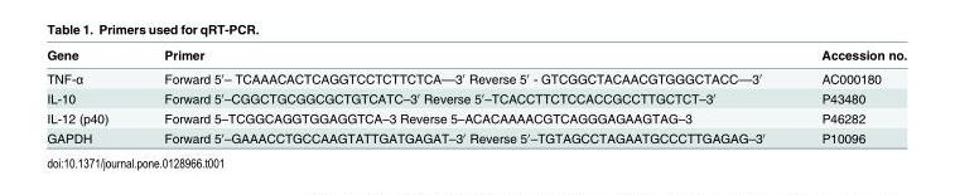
<table><thead><tr><td>Gene</td><td>Primer</td><td>Accession no.</td></tr></thead><tbody><tr><td>TNF-α</td><td>Forward 5′– TCAAACACTCAGGTCCTCTTCTCA––3′ Reverse 5′ - GTCGGCTACAACGTGGGCTACC––3′</td><td>AC000180</td></tr><tr><td>IL-10</td><td>Forward 5′–CGGCTGCGGCGCTGTCATC–3′ Reverse 5′–TCACCTTCTCCACCGCCTTGCTCT–3′</td><td>P43480</td></tr><tr><td>IL-12 (p40)</td><td>Forward 5–TCGGCAGGTGGAGGTCA–3 Reverse 5–ACACAAAACGTCAGGGAGAAGTAG–3</td><td>P46282</td></tr><tr><td>GAPDH</td><td>Forward 5′–GAAACCTGCCAAGTATTGATGAGAT–3′ Reverse 5′–TGTAGCCTAGAATGCCCTTGAGAG–3′</td><td>P10096</td></tr></tbody></table>